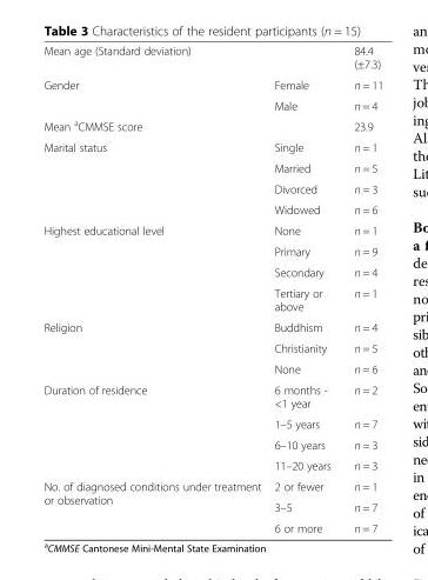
<table><tbody><tr><td colspan="2">Mean age (Standard deviation)</td><td>84.4 (±7.3)</td></tr><tr><td rowspan="2">Gender</td><td>Female</td><td>n = 11</td></tr><tr><td>Male</td><td>n = 4</td></tr><tr><td>Mean <sup>a</sup>CMMSE score</td><td></td><td>23.9</td></tr><tr><td rowspan="4">Marital status</td><td>Single</td><td>n = 1</td></tr><tr><td>Married</td><td>n = 5</td></tr><tr><td>Divorced</td><td>n = 3</td></tr><tr><td>Widowed</td><td>n = 6</td></tr><tr><td rowspan="4">Highest educational level</td><td>None</td><td>n = 1</td></tr><tr><td>Primary</td><td>n = 9</td></tr><tr><td>Secondary</td><td>n = 4</td></tr><tr><td>Tertiary or above</td><td>n = 1</td></tr><tr><td rowspan="3">Religion</td><td>Buddhism</td><td>n = 4</td></tr><tr><td>Christianity</td><td>n = 5</td></tr><tr><td>None</td><td>n = 6</td></tr><tr><td rowspan="4">Duration of residence</td><td>6 months - &lt;1 year</td><td>n = 2</td></tr><tr><td>1–5 years</td><td>n = 7</td></tr><tr><td>6–10 years</td><td>n = 3</td></tr><tr><td>11–20 years</td><td>n = 3</td></tr><tr><td rowspan="3">No. of diagnosed conditions under treatment or observation</td><td>2 or fewer</td><td>n = 1</td></tr><tr><td>3–5</td><td>n = 7</td></tr><tr><td>6 or more</td><td>n = 7</td></tr></tbody></table>